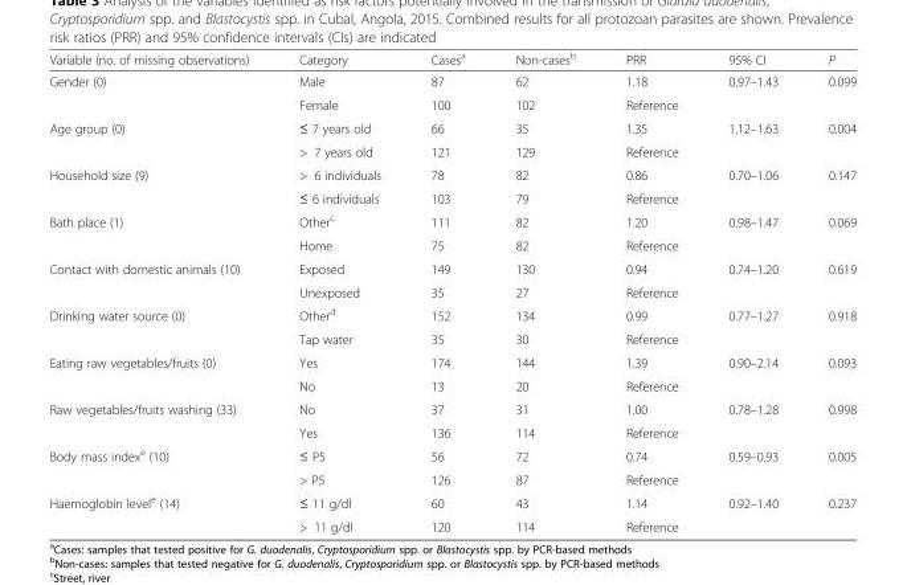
<table><thead><tr><td>Variable (no. of missing observations)</td><td>Category</td><td>Cases<sup>a</sup></td><td>Non-cases<sup>b</sup></td><td>PRR</td><td>95% CI</td><td>P</td></tr></thead><tbody><tr><td rowspan="2">Gender (0)</td><td>Male</td><td>87</td><td>62</td><td>1.18</td><td>0.97–1.43</td><td>0.099</td></tr><tr><td>Female</td><td>100</td><td>102</td><td>Reference</td><td></td><td></td></tr><tr><td rowspan="2">Age group (0)</td><td>≤ 7 years old</td><td>66</td><td>35</td><td>1.35</td><td>1.12–1.63</td><td>0.004</td></tr><tr><td>&gt; 7 years old</td><td>121</td><td>129</td><td>Reference</td><td></td><td></td></tr><tr><td rowspan="2">Household size (9)</td><td>&gt; 6 individuals</td><td>78</td><td>82</td><td>0.86</td><td>0.70–1.06</td><td>0.147</td></tr><tr><td>≤ 6 individuals</td><td>103</td><td>79</td><td>Reference</td><td></td><td></td></tr><tr><td rowspan="2">Bath place (1)</td><td>Other<sup>c</sup></td><td>111</td><td>82</td><td>1.20</td><td>0.98–1.47</td><td>0.069</td></tr><tr><td>Home</td><td>75</td><td>82</td><td>Reference</td><td></td><td></td></tr><tr><td rowspan="2">Contact with domestic animals (10)</td><td>Exposed</td><td>149</td><td>130</td><td>0.94</td><td>0.74–1.20</td><td>0.619</td></tr><tr><td>Unexposed</td><td>35</td><td>27</td><td>Reference</td><td></td><td></td></tr><tr><td rowspan="2">Drinking water source (0)</td><td>Other<sup>d</sup></td><td>152</td><td>134</td><td>0.99</td><td>0.77–1.27</td><td>0.918</td></tr><tr><td>Tap water</td><td>35</td><td>30</td><td>Reference</td><td></td><td></td></tr><tr><td rowspan="2">Eating raw vegetables/fruits (0)</td><td>Yes</td><td>174</td><td>144</td><td>1.39</td><td>0.90–2.14</td><td>0.093</td></tr><tr><td>No</td><td>13</td><td>20</td><td>Reference</td><td></td><td></td></tr><tr><td rowspan="2">Raw vegetables/fruits washing (33)</td><td>No</td><td>37</td><td>31</td><td>1.00</td><td>0.78–1.28</td><td>0.998</td></tr><tr><td>Yes</td><td>136</td><td>114</td><td>Reference</td><td></td><td></td></tr><tr><td rowspan="2">Body mass index<sup>e</sup> (10)</td><td>≤ P5</td><td>56</td><td>72</td><td>0.74</td><td>0.59–0.93</td><td>0.005</td></tr><tr><td>&gt; P5</td><td>126</td><td>87</td><td>Reference</td><td></td><td></td></tr><tr><td rowspan="2">Haemoglobin level<sup>e</sup> (14)</td><td>≤ 11 g/dl</td><td>60</td><td>43</td><td>1.14</td><td>0.92–1.40</td><td>0.237</td></tr><tr><td>&gt; 11 g/dl</td><td>120</td><td>114</td><td>Reference</td><td></td><td></td></tr></tbody></table>